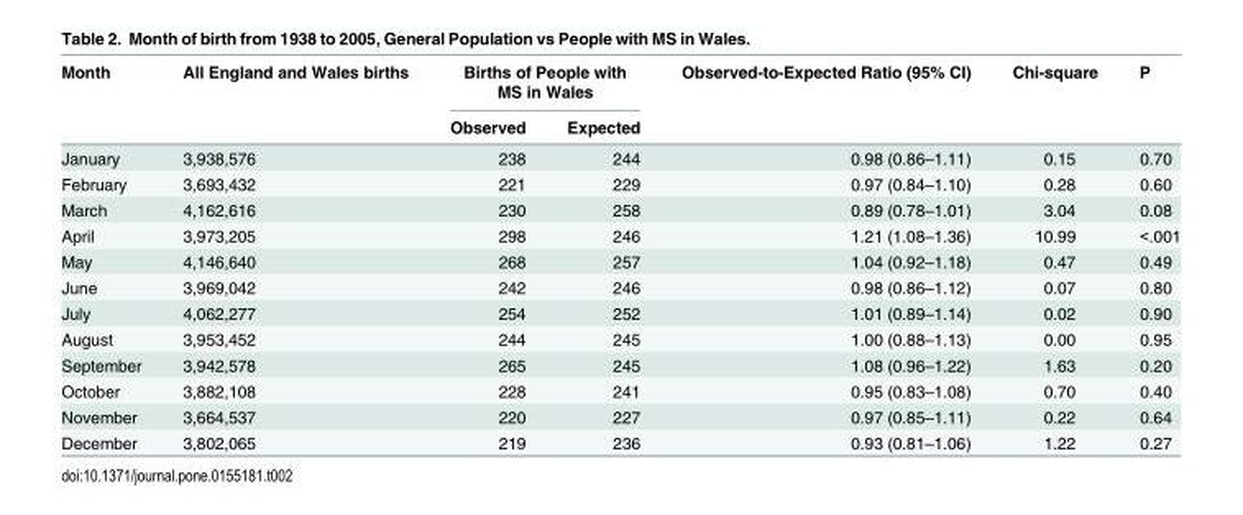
<table><thead><tr><td rowspan="2">Month</td><td rowspan="2">All England and Wales births</td><td colspan="2">Births of People with MS in Wales</td><td rowspan="2">Observed-to-Expected Ratio (95% CI)</td><td rowspan="2">Chi-square</td><td rowspan="2">P</td></tr><tr><td>Observed</td><td>Expected</td></tr></thead><tbody><tr><td>January</td><td>3,938,576</td><td>238</td><td>244</td><td>0.98 (0.86–1.11)</td><td>0.15</td><td>0.70</td></tr><tr><td>February</td><td>3,693,432</td><td>221</td><td>229</td><td>0.97 (0.84–1.10)</td><td>0.28</td><td>0.60</td></tr><tr><td>March</td><td>4,162,616</td><td>230</td><td>258</td><td>0.89 (0.78–1.01)</td><td>3.04</td><td>0.08</td></tr><tr><td>April</td><td>3,973,205</td><td>298</td><td>246</td><td>1.21 (1.08–1.36)</td><td>10.99</td><td>&lt;.001</td></tr><tr><td>May</td><td>4,146,640</td><td>268</td><td>257</td><td>1.04 (0.92–1.18)</td><td>0.47</td><td>0.49</td></tr><tr><td>June</td><td>3,969,042</td><td>242</td><td>246</td><td>0.98 (0.86–1.12)</td><td>0.07</td><td>0.80</td></tr><tr><td>July</td><td>4,062,277</td><td>254</td><td>252</td><td>1.01 (0.89–1.14)</td><td>0.02</td><td>0.90</td></tr><tr><td>August</td><td>3,953,452</td><td>244</td><td>245</td><td>1.00 (0.88–1.13)</td><td>0.00</td><td>0.95</td></tr><tr><td>September</td><td>3,942,578</td><td>265</td><td>245</td><td>1.08 (0.96–1.22)</td><td>1.63</td><td>0.20</td></tr><tr><td>October</td><td>3,882,108</td><td>228</td><td>241</td><td>0.95 (0.83–1.08)</td><td>0.70</td><td>0.40</td></tr><tr><td>November</td><td>3,664,537</td><td>220</td><td>227</td><td>0.97 (0.85–1.11)</td><td>0.22</td><td>0.64</td></tr><tr><td>December</td><td>3,802,065</td><td>219</td><td>236</td><td>0.93 (0.81–1.06)</td><td>1.22</td><td>0.27</td></tr></tbody></table>